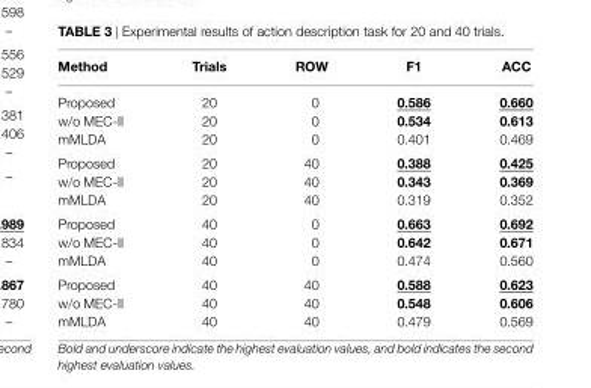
<table><thead><tr><td>Method</td><td>Trials</td><td>ROW</td><td>F1</td><td>ACC</td></tr></thead><tbody><tr><td>Proposed</td><td>20</td><td>0</td><td>0.586</td><td>0.660</td></tr><tr><td>w/o MEC-II</td><td>20</td><td>0</td><td>0.534</td><td>0.613</td></tr><tr><td>mMLDA</td><td>20</td><td>0</td><td>0.401</td><td>0.469</td></tr><tr><td>Proposed</td><td>20</td><td>40</td><td>0.388</td><td>0.425</td></tr><tr><td>w/o MEC-II</td><td>20</td><td>40</td><td>0.343</td><td>0.369</td></tr><tr><td>mMLDA</td><td>20</td><td>40</td><td>0.319</td><td>0.352</td></tr><tr><td>Proposed</td><td>40</td><td>0</td><td>0.663</td><td>0.692</td></tr><tr><td>w/o MEC-II</td><td>40</td><td>0</td><td>0.642</td><td>0.671</td></tr><tr><td>mMLDA</td><td>40</td><td>0</td><td>0.474</td><td>0.560</td></tr><tr><td>Proposed</td><td>40</td><td>40</td><td>0.588</td><td>0.623</td></tr><tr><td>w/o MEC-II</td><td>40</td><td>40</td><td>0.548</td><td>0.606</td></tr><tr><td>mMLDA</td><td>40</td><td>40</td><td>0.479</td><td>0.569</td></tr></tbody></table>